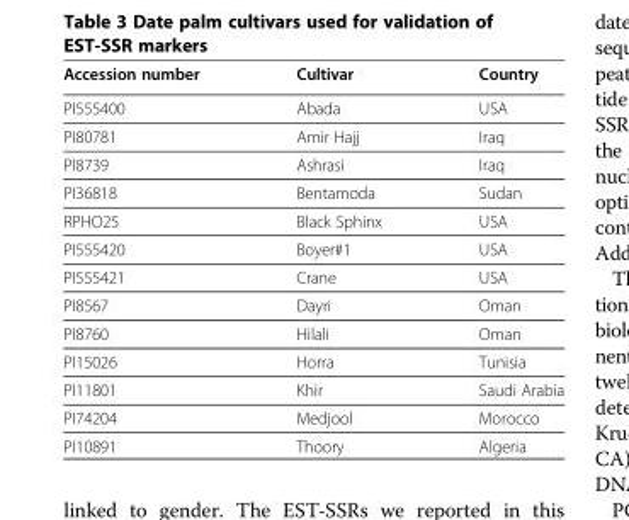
<table><thead><tr><td>Accession number</td><td>Cultivar</td><td>Country</td></tr></thead><tbody><tr><td>PI555400</td><td>Abada</td><td>USA</td></tr><tr><td>PI80781</td><td>Amir Hajj</td><td>Iraq</td></tr><tr><td>PI8739</td><td>Ashrasi</td><td>Iraq</td></tr><tr><td>PI36818</td><td>Bentamoda</td><td>Sudan</td></tr><tr><td>RPHO25</td><td>Black Sphinx</td><td>USA</td></tr><tr><td>PI555420</td><td>Boyer#1</td><td>USA</td></tr><tr><td>PI555421</td><td>Crane</td><td>USA</td></tr><tr><td>PI8567</td><td>Dayri</td><td>Oman</td></tr><tr><td>PI8760</td><td>Hilali</td><td>Oman</td></tr><tr><td>PI15026</td><td>Horra</td><td>Tunisia</td></tr><tr><td>PI11801</td><td>Khir</td><td>Saudi Arabia</td></tr><tr><td>PI74204</td><td>Medjool</td><td>Morocco</td></tr><tr><td>PI10891</td><td>Thoory</td><td>Algeria</td></tr></tbody></table>